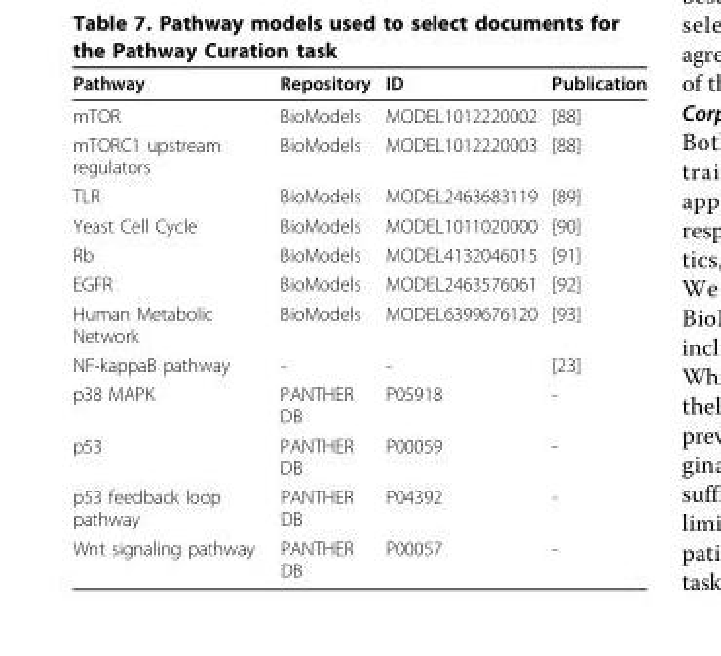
<table><thead><tr><td>Pathway</td><td>Repository</td><td>ID</td><td>Publication</td></tr></thead><tbody><tr><td>mTOR</td><td>BioModels</td><td>MODEL1012220002</td><td>[88]</td></tr><tr><td>mTORC1 upstream regulators</td><td>BioModels</td><td>MODEL1012220003</td><td>[88]</td></tr><tr><td>TLR</td><td>BioModels</td><td>MODEL2463683119</td><td>[89]</td></tr><tr><td>Yeast Cell Cycle</td><td>BioModels</td><td>MODEL1011020000</td><td>[90]</td></tr><tr><td>Rb</td><td>BioModels</td><td>MODEL4132046015</td><td>[91]</td></tr><tr><td>EGFR</td><td>BioModels</td><td>MODEL2463576061</td><td>[92]</td></tr><tr><td>Human Metabolic Network</td><td>BioModels</td><td>MODEL6399676120</td><td>[93]</td></tr><tr><td>NF-kappaB pathway</td><td>-</td><td>-</td><td>[23]</td></tr><tr><td>p38 MAPK</td><td>PANTHER DB</td><td>P05918</td><td>-</td></tr><tr><td>p53</td><td>PANTHER DB</td><td>P00059</td><td>-</td></tr><tr><td>p53 feedback loop pathway</td><td>PANTHER DB</td><td>P04392</td><td>-</td></tr><tr><td>Wnt signaling pathway</td><td>PANTHER DB</td><td>P00057</td><td>-</td></tr></tbody></table>